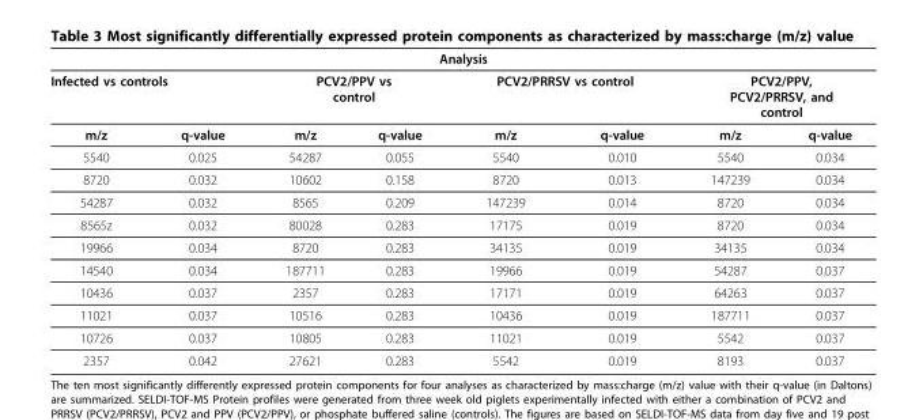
<table><thead><tr><td colspan="8">Analysis</td></tr><tr><td colspan="2">Infected vs controls</td><td colspan="2">PCV2/PPV vs control</td><td colspan="2">PCV2/PRRSV vs control</td><td colspan="2">PCV2/PPV, PCV2/PRRSV, and control</td></tr><tr><td>m/z</td><td>q-value</td><td>m/z</td><td>q-value</td><td>m/z</td><td>q-value</td><td>m/z</td><td>q-value</td></tr></thead><tbody><tr><td>5540</td><td>0.025</td><td>54287</td><td>0.055</td><td>5540</td><td>0.010</td><td>5540</td><td>0.034</td></tr><tr><td>8720</td><td>0.032</td><td>10602</td><td>0.158</td><td>8720</td><td>0.013</td><td>147239</td><td>0.034</td></tr><tr><td>54287</td><td>0.032</td><td>8565</td><td>0.209</td><td>147239</td><td>0.014</td><td>8720</td><td>0.034</td></tr><tr><td>8565z</td><td>0.032</td><td>80028</td><td>0.283</td><td>17175</td><td>0.019</td><td>8720</td><td>0.034</td></tr><tr><td>19966</td><td>0.034</td><td>8720</td><td>0.283</td><td>34135</td><td>0.019</td><td>34135</td><td>0.034</td></tr><tr><td>14540</td><td>0.034</td><td>187711</td><td>0.283</td><td>19966</td><td>0.019</td><td>54287</td><td>0.037</td></tr><tr><td>10436</td><td>0.037</td><td>2357</td><td>0.283</td><td>17171</td><td>0.019</td><td>64263</td><td>0.037</td></tr><tr><td>11021</td><td>0.037</td><td>10516</td><td>0.283</td><td>10436</td><td>0.019</td><td>187711</td><td>0.037</td></tr><tr><td>10726</td><td>0.037</td><td>10805</td><td>0.283</td><td>11021</td><td>0.019</td><td>5542</td><td>0.037</td></tr><tr><td>2357</td><td>0.042</td><td>27621</td><td>0.283</td><td>5542</td><td>0.019</td><td>8193</td><td>0.037</td></tr></tbody></table>